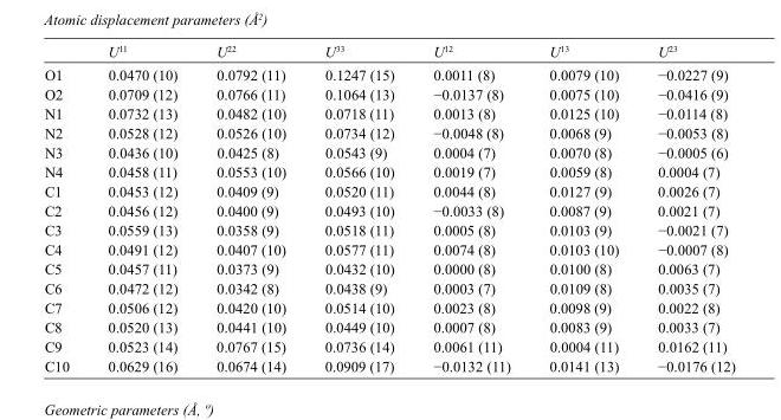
<table><thead><tr><td></td><td>U<sup>11</sup></td><td>U<sup>22</sup></td><td>U<sup>33</sup></td><td>U<sup>12</sup></td><td>U<sup>13</sup></td><td>U<sup>23</sup></td></tr></thead><tbody><tr><td>O1</td><td>0.0470 (10)</td><td>0.0792 (11)</td><td>0.1247 (15)</td><td>0.0011 (8)</td><td>0.0079 (10)</td><td>−0.0227 (9)</td></tr><tr><td>O2</td><td>0.0709 (12)</td><td>0.0766 (11)</td><td>0.1064 (13)</td><td>−0.0137 (8)</td><td>0.0075 (10)</td><td>−0.0416 (9)</td></tr><tr><td>N1</td><td>0.0732 (13)</td><td>0.0482 (10)</td><td>0.0718 (11)</td><td>0.0013 (8)</td><td>0.0125 (10)</td><td>−0.0114 (8)</td></tr><tr><td>N2</td><td>0.0528 (12)</td><td>0.0526 (10)</td><td>0.0734 (12)</td><td>−0.0048 (8)</td><td>0.0068 (9)</td><td>−0.0053 (8)</td></tr><tr><td>N3</td><td>0.0436 (10)</td><td>0.0425 (8)</td><td>0.0543 (9)</td><td>0.0004 (7)</td><td>0.0070 (8)</td><td>−0.0005 (6)</td></tr><tr><td>N4</td><td>0.0458 (11)</td><td>0.0553 (10)</td><td>0.0566 (10)</td><td>0.0019 (7)</td><td>0.0059 (8)</td><td>0.0004 (7)</td></tr><tr><td>C1</td><td>0.0453 (12)</td><td>0.0409 (9)</td><td>0.0520 (11)</td><td>0.0044 (8)</td><td>0.0127 (9)</td><td>0.0026 (7)</td></tr><tr><td>C2</td><td>0.0456 (12)</td><td>0.0400 (9)</td><td>0.0493 (10)</td><td>−0.0033 (8)</td><td>0.0087 (9)</td><td>0.0021 (7)</td></tr><tr><td>C3</td><td>0.0559 (13)</td><td>0.0358 (9)</td><td>0.0518 (11)</td><td>0.0005 (8)</td><td>0.0103 (9)</td><td>−0.0021 (7)</td></tr><tr><td>C4</td><td>0.0491 (12)</td><td>0.0407 (10)</td><td>0.0577 (11)</td><td>0.0074 (8)</td><td>0.0103 (10)</td><td>−0.0007 (8)</td></tr><tr><td>C5</td><td>0.0457 (11)</td><td>0.0373 (9)</td><td>0.0432 (10)</td><td>0.0000 (8)</td><td>0.0100 (8)</td><td>0.0063 (7)</td></tr><tr><td>C6</td><td>0.0472 (12)</td><td>0.0342 (8)</td><td>0.0438 (9)</td><td>0.0003 (7)</td><td>0.0109 (8)</td><td>0.0035 (7)</td></tr><tr><td>C7</td><td>0.0506 (12)</td><td>0.0420 (10)</td><td>0.0514 (10)</td><td>0.0023 (8)</td><td>0.0098 (9)</td><td>0.0022 (8)</td></tr><tr><td>C8</td><td>0.0520 (13)</td><td>0.0441 (10)</td><td>0.0449 (10)</td><td>0.0007 (8)</td><td>0.0083 (9)</td><td>0.0033 (7)</td></tr><tr><td>C9</td><td>0.0523 (14)</td><td>0.0767 (15)</td><td>0.0736 (14)</td><td>0.0061 (11)</td><td>0.0004 (11)</td><td>0.0162 (11)</td></tr><tr><td>C10</td><td>0.0629 (16)</td><td>0.0674 (14)</td><td>0.0909 (17)</td><td>−0.0132 (11)</td><td>0.0141 (13)</td><td>−0.0176 (12)</td></tr></tbody></table>